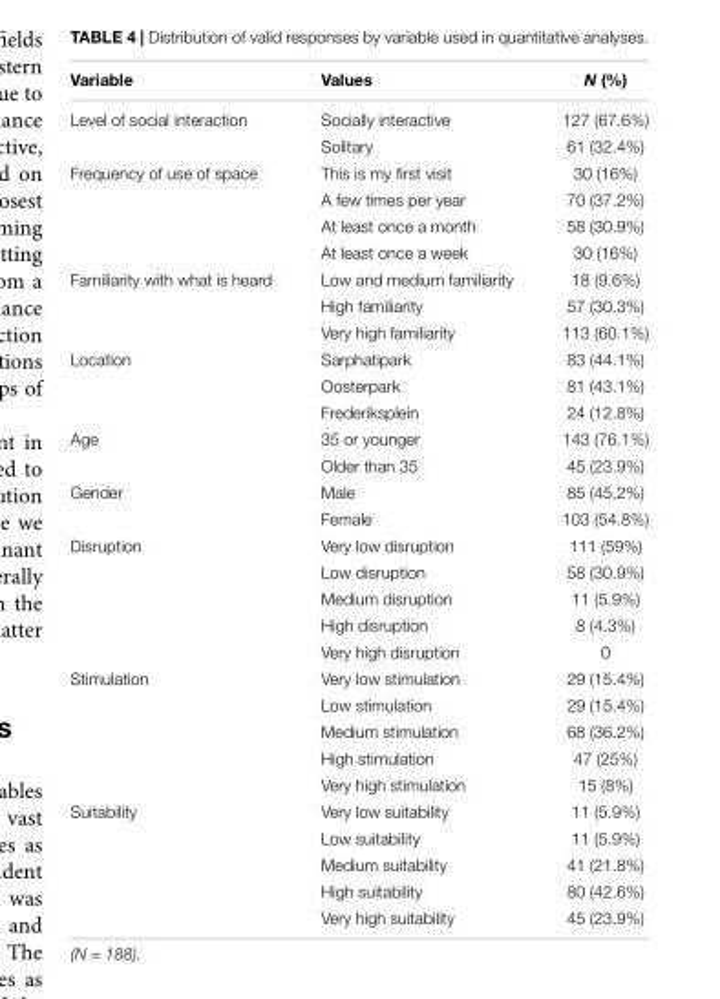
<table><thead><tr><td>Variable</td><td>Values</td><td>N (%)</td></tr></thead><tbody><tr><td rowspan="2">Level of social interaction</td><td>Socially interactive</td><td>127 (67.6%)</td></tr><tr><td>Solitary</td><td>61 (32.4%)</td></tr><tr><td rowspan="4">Frequency of use of space</td><td>This is my first visit</td><td>30 (16%)</td></tr><tr><td>A few times per year</td><td>70 (37.2%)</td></tr><tr><td>At least once a month</td><td>58 (30.9%)</td></tr><tr><td>At least once a week</td><td>30 (16%)</td></tr><tr><td rowspan="3">Familiarity with what is heard</td><td>Low and medium familiarity</td><td>18 (9.6%)</td></tr><tr><td>High familiarity</td><td>57 (30.3%)</td></tr><tr><td>Very high familiarity</td><td>113 (60.1%)</td></tr><tr><td rowspan="3">Location</td><td>Sarphatipark</td><td>83 (44.1%)</td></tr><tr><td>Oosterpark</td><td>81 (43.1%)</td></tr><tr><td>Frederiksplein</td><td>24 (12.8%)</td></tr><tr><td rowspan="2">Age</td><td>35 or younger</td><td>143 (76.1%)</td></tr><tr><td>Older than 35</td><td>45 (23.9%)</td></tr><tr><td rowspan="2">Gender</td><td>Male</td><td>85 (45.2%)</td></tr><tr><td>Female</td><td>103 (54.8%)</td></tr><tr><td rowspan="5">Disruption</td><td>Very low disruption</td><td>111 (59%)</td></tr><tr><td>Low disruption</td><td>58 (30.9%)</td></tr><tr><td>Medium disruption</td><td>11 (5.9%)</td></tr><tr><td>High disruption</td><td>8 (4.3%)</td></tr><tr><td>Very high disruption</td><td>0</td></tr><tr><td rowspan="5">Stimulation</td><td>Very low stimulation</td><td>29 (15.4%)</td></tr><tr><td>Low stimulation</td><td>29 (15.4%)</td></tr><tr><td>Medium stimulation</td><td>68 (36.2%)</td></tr><tr><td>High stimulation</td><td>47 (25%)</td></tr><tr><td>Very high stimulation</td><td>15 (8%)</td></tr><tr><td rowspan="5">Suitability</td><td>Very low suitability</td><td>11 (5.9%)</td></tr><tr><td>Low suitability</td><td>11 (5.9%)</td></tr><tr><td>Medium suitability</td><td>41 (21.8%)</td></tr><tr><td>High suitability</td><td>80 (42.6%)</td></tr><tr><td>Very high suitability</td><td>45 (23.9%)</td></tr></tbody></table>